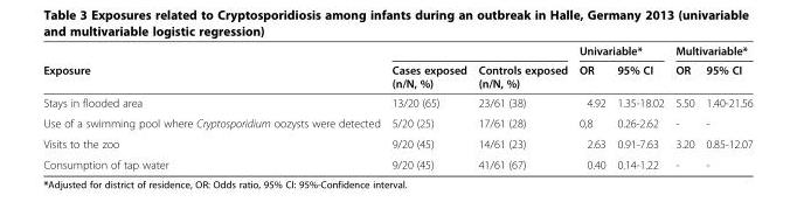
<table><thead><tr><td rowspan="2">Exposure</td><td rowspan="2">Cases exposed (n/N, %)</td><td rowspan="2">Controls exposed (n/N, %)</td><td colspan="2">Univariable*</td><td colspan="2">Multivariable*</td></tr><tr><td>OR</td><td>95% CI</td><td>OR</td><td>95% CI</td></tr></thead><tbody><tr><td>Stays in flooded area</td><td>13/20 (65)</td><td>23/61 (38)</td><td>4.92</td><td>1.35-18.02</td><td>5.50</td><td>1.40-21.56</td></tr><tr><td>Use of a swimming pool where Cryptosporidium oozysts were detected</td><td>5/20 (25)</td><td>17/61 (28)</td><td>0,8</td><td>0.26-2.62</td><td>-</td><td>-</td></tr><tr><td>Visits to the zoo</td><td>9/20 (45)</td><td>14/61 (23)</td><td>2.63</td><td>0.91-7.63</td><td>3.20</td><td>0.85-12.07</td></tr><tr><td>Consumption of tap water</td><td>9/20 (45)</td><td>41/61 (67)</td><td>0.40</td><td>0.14-1.22</td><td>-</td><td>-</td></tr></tbody></table>